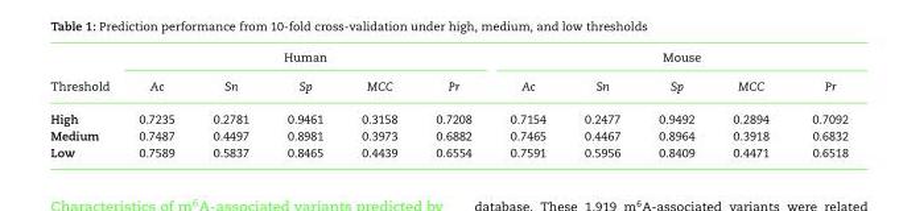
<table><thead><tr><td rowspan="2">Threshold</td><td colspan="5">Human</td><td colspan="5">Mouse</td></tr><tr><td>Ac</td><td>Sn</td><td>Sp</td><td>MCC</td><td>Pr</td><td>Ac</td><td>Sn</td><td>Sp</td><td>MCC</td><td>Pr</td></tr></thead><tbody><tr><td>High</td><td>0.7235</td><td>0.2781</td><td>0.9461</td><td>0.3158</td><td>0.7208</td><td>0.7154</td><td>0.2477</td><td>0.9492</td><td>0.2894</td><td>0.7092</td></tr><tr><td>Medium</td><td>0.7487</td><td>0.4497</td><td>0.8981</td><td>0.3973</td><td>0.6882</td><td>0.7465</td><td>0.4467</td><td>0.8964</td><td>0.3918</td><td>0.6832</td></tr><tr><td>Low</td><td>0.7589</td><td>0.5837</td><td>0.8465</td><td>0.4439</td><td>0.6554</td><td>0.7591</td><td>0.5956</td><td>0.8409</td><td>0.4471</td><td>0.6518</td></tr></tbody></table>